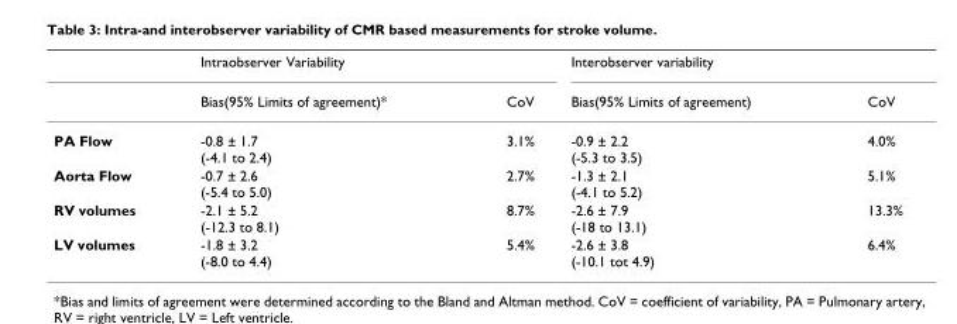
<table><thead><tr><td rowspan="2"></td><td colspan="2">Intraobserver Variability</td><td colspan="2">Interobserver variability</td></tr><tr><td>Bias(95% Limits of agreement)*</td><td>CoV</td><td>Bias(95% Limits of agreement)</td><td>CoV</td></tr></thead><tbody><tr><td>PA Flow</td><td>-0.8 ± 1.7 (-4.1 to 2.4)</td><td>3.1%</td><td>-0.9 ± 2.2 (-5.3 to 3.5)</td><td>4.0%</td></tr><tr><td>Aorta Flow</td><td>-0.7 ± 2.6 (-5.4 to 5.0)</td><td>2.7%</td><td>-1.3 ± 2.1 (-4.1 to 5.2)</td><td>5.1%</td></tr><tr><td>RV volumes</td><td>-2.1 ± 5.2 (-12.3 to 8.1)</td><td>8.7%</td><td>-2.6 ± 7.9 (-18 to 13.1)</td><td>13.3%</td></tr><tr><td>LV volumes</td><td>-1.8 ± 3.2 (-8.0 to 4.4)</td><td>5.4%</td><td>-2.6 ± 3.8 (-10.1 tot 4.9)</td><td>6.4%</td></tr></tbody></table>